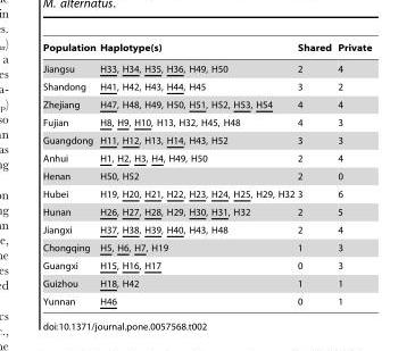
<table><thead><tr><td>Population</td><td>Haplotype(s)</td><td>Shared</td><td>Private</td></tr></thead><tbody><tr><td>Jiangsu</td><td>H33, H34, H35, H36, H49, H50</td><td>2</td><td>4</td></tr><tr><td>Shandong</td><td>H41, H42, H43, H44, H45</td><td>3</td><td>2</td></tr><tr><td>Zhejiang</td><td>H47, H48, H49, H50, H51, H52, H53, H54</td><td>4</td><td>4</td></tr><tr><td>Fujian</td><td>H8, H9, H10, H13, H32, H45, H48</td><td>4</td><td>3</td></tr><tr><td>Guangdong</td><td>H11, H12, H13, H14, H43, H52</td><td>3</td><td>3</td></tr><tr><td>Anhui</td><td>H1, H2, H3, H4, H49, H50</td><td>2</td><td>4</td></tr><tr><td>Henan</td><td>H50, H52</td><td>2</td><td>0</td></tr><tr><td>Hubei</td><td>H19, H20, H21, H22, H23, H24, H25, H29, H32</td><td>3</td><td>6</td></tr><tr><td>Hunan</td><td>H26, H27, H28, H29, H30, H31, H32</td><td>2</td><td>5</td></tr><tr><td>Jiangxi</td><td>H37, H38, H39, H40, H43, H48</td><td>2</td><td>4</td></tr><tr><td>Chongqing</td><td>H5, H6, H7, H19</td><td>1</td><td>3</td></tr><tr><td>Guangxi</td><td>H15, H16, H17</td><td>0</td><td>3</td></tr><tr><td>Guizhou</td><td>H18, H42</td><td>1</td><td>1</td></tr><tr><td>Yunnan</td><td>H46</td><td>0</td><td>1</td></tr></tbody></table>